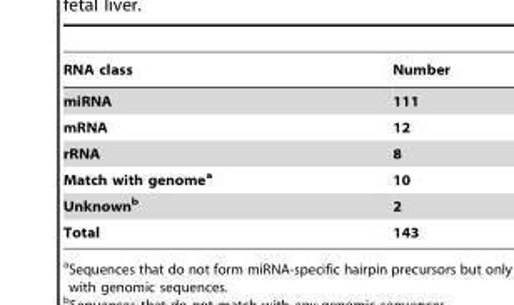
<table><thead><tr><td>RNA class</td><td>Number</td></tr></thead><tbody><tr><td>miRNA</td><td>111</td></tr><tr><td>mRNA</td><td>12</td></tr><tr><td>rRNA</td><td>8</td></tr><tr><td>Match with genomea</td><td>10</td></tr><tr><td>Unknownb</td><td>2</td></tr><tr><td>Total</td><td>143</td></tr></tbody></table>